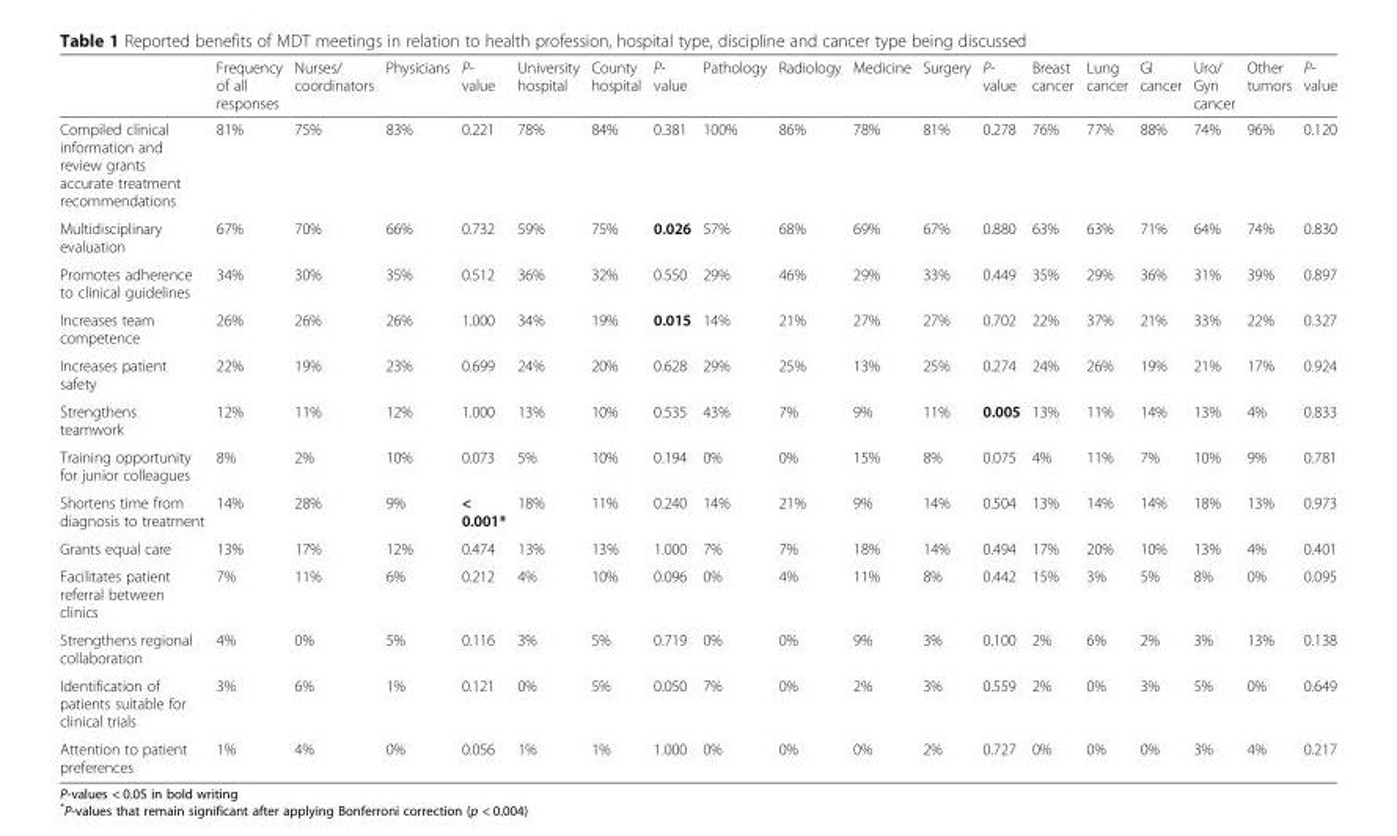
<table><thead><tr><td></td><td>Frequency of all responses</td><td>Nurses/ coordinators</td><td>Physicians</td><td>P- value</td><td>University hospital</td><td>County hospital</td><td>P- value</td><td>Pathology</td><td>Radiology</td><td>Medicine</td><td>Surgery</td><td>P- value</td><td>Breast cancer</td><td>Lung cancer</td><td>GI cancer</td><td>Uro/ Gyn cancer</td><td>Other tumors</td><td>P- value</td></tr></thead><tbody><tr><td>Compiled clinical information and review grants accurate treatment recommendations</td><td>81%</td><td>75%</td><td>83%</td><td>0.221</td><td>78%</td><td>84%</td><td>0.381</td><td>100%</td><td>86%</td><td>78%</td><td>81%</td><td>0.278</td><td>76%</td><td>77%</td><td>88%</td><td>74%</td><td>96%</td><td>0.120</td></tr><tr><td>Multidisciplinary evaluation</td><td>67%</td><td>70%</td><td>66%</td><td>0.732</td><td>59%</td><td>75%</td><td>0.026</td><td>57%</td><td>68%</td><td>69%</td><td>67%</td><td>0.880</td><td>63%</td><td>63%</td><td>71%</td><td>64%</td><td>74%</td><td>0.830</td></tr><tr><td>Promotes adherence to clinical guidelines</td><td>34%</td><td>30%</td><td>35%</td><td>0.512</td><td>36%</td><td>32%</td><td>0.550</td><td>29%</td><td>46%</td><td>29%</td><td>33%</td><td>0.449</td><td>35%</td><td>29%</td><td>36%</td><td>31%</td><td>39%</td><td>0.897</td></tr><tr><td>Increases team competence</td><td>26%</td><td>26%</td><td>26%</td><td>1.000</td><td>34%</td><td>19%</td><td>0.015</td><td>14%</td><td>21%</td><td>27%</td><td>27%</td><td>0.702</td><td>22%</td><td>37%</td><td>21%</td><td>33%</td><td>22%</td><td>0.327</td></tr><tr><td>Increases patient safety</td><td>22%</td><td>19%</td><td>23%</td><td>0.699</td><td>24%</td><td>20%</td><td>0.628</td><td>29%</td><td>25%</td><td>13%</td><td>25%</td><td>0.274</td><td>24%</td><td>26%</td><td>19%</td><td>21%</td><td>17%</td><td>0.924</td></tr><tr><td>Strengthens teamwork</td><td>12%</td><td>11%</td><td>12%</td><td>1.000</td><td>13%</td><td>10%</td><td>0.535</td><td>43%</td><td>7%</td><td>9%</td><td>11%</td><td>0.005</td><td>13%</td><td>11%</td><td>14%</td><td>13%</td><td>4%</td><td>0.833</td></tr><tr><td>Training opportunity for junior colleagues</td><td>8%</td><td>2%</td><td>10%</td><td>0.073</td><td>5%</td><td>10%</td><td>0.194</td><td>0%</td><td>0%</td><td>15%</td><td>8%</td><td>0.075</td><td>4%</td><td>11%</td><td>7%</td><td>10%</td><td>9%</td><td>0.781</td></tr><tr><td>Shortens time from diagnosis to treatment</td><td>14%</td><td>28%</td><td>9%</td><td>&lt; 0.001*</td><td>18%</td><td>11%</td><td>0.240</td><td>14%</td><td>21%</td><td>9%</td><td>14%</td><td>0.504</td><td>13%</td><td>14%</td><td>14%</td><td>18%</td><td>13%</td><td>0.973</td></tr><tr><td>Grants equal care</td><td>13%</td><td>17%</td><td>12%</td><td>0.474</td><td>13%</td><td>13%</td><td>1.000</td><td>7%</td><td>7%</td><td>18%</td><td>14%</td><td>0.494</td><td>17%</td><td>20%</td><td>10%</td><td>13%</td><td>4%</td><td>0.401</td></tr><tr><td>Facilitates patient referral between clinics</td><td>7%</td><td>11%</td><td>6%</td><td>0.212</td><td>4%</td><td>10%</td><td>0.096</td><td>0%</td><td>4%</td><td>11%</td><td>8%</td><td>0.442</td><td>15%</td><td>3%</td><td>5%</td><td>8%</td><td>0%</td><td>0.095</td></tr><tr><td>Strengthens regional collaboration</td><td>4%</td><td>0%</td><td>5%</td><td>0.116</td><td>3%</td><td>5%</td><td>0.719</td><td>0%</td><td>0%</td><td>9%</td><td>3%</td><td>0.100</td><td>2%</td><td>6%</td><td>2%</td><td>3%</td><td>13%</td><td>0.138</td></tr><tr><td>Identification of patients suitable for clinical trials</td><td>3%</td><td>6%</td><td>1%</td><td>0.121</td><td>0%</td><td>5%</td><td>0.050</td><td>7%</td><td>0%</td><td>2%</td><td>3%</td><td>0.559</td><td>2%</td><td>0%</td><td>3%</td><td>5%</td><td>0%</td><td>0.649</td></tr><tr><td>Attention to patient preferences</td><td>1%</td><td>4%</td><td>0%</td><td>0.056</td><td>1%</td><td>1%</td><td>1.000</td><td>0%</td><td>0%</td><td>0%</td><td>2%</td><td>0.727</td><td>0%</td><td>0%</td><td>0%</td><td>3%</td><td>4%</td><td>0.217</td></tr></tbody></table>